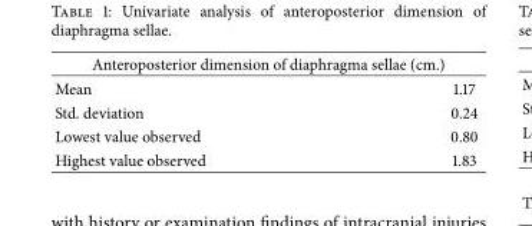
<table><thead><tr><td colspan="2">Anteroposterior dimension of diaphragma sellae (cm.)</td></tr><tr><td>Mean</td><td>1.17</td></tr></thead><tbody><tr><td>Std. deviation</td><td>0.24</td></tr><tr><td>Lowest value observed</td><td>0.80</td></tr><tr><td>Highest value observed</td><td>1.83</td></tr></tbody></table>